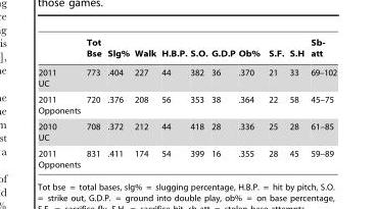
<table><thead><tr><td></td><td>Tot Bse</td><td>Slg%</td><td>Walk</td><td>H.B.P.</td><td>S.O.</td><td>G.D.P</td><td>Ob%</td><td>S.F.</td><td>S.H</td><td>Sb- att</td></tr></thead><tbody><tr><td>2011 UC</td><td>773</td><td>.404</td><td>227</td><td>44</td><td>382</td><td>36</td><td>.370</td><td>21</td><td>33</td><td>69–102</td></tr><tr><td>2011 Opponents</td><td>720</td><td>.376</td><td>208</td><td>56</td><td>353</td><td>38</td><td>.364</td><td>22</td><td>58</td><td>45–75</td></tr><tr><td>2010 UC</td><td>708</td><td>.372</td><td>212</td><td>44</td><td>418</td><td>28</td><td>.336</td><td>25</td><td>28</td><td>61–85</td></tr><tr><td>2011 Opponents</td><td>831</td><td>.411</td><td>174</td><td>54</td><td>399</td><td>16</td><td>.355</td><td>28</td><td>45</td><td>59–89</td></tr></tbody></table>